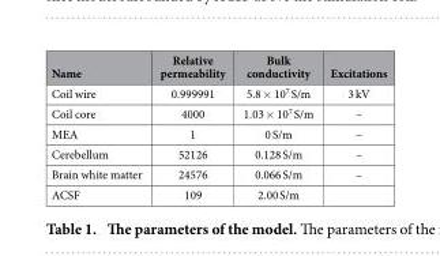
<table><thead><tr><td>Name</td><td>Relative permeability</td><td>Bulk conductivity</td><td>Excitations</td></tr></thead><tbody><tr><td>Coil wire</td><td>0.999991</td><td>5.8 × 10<sup>7</sup> S/m</td><td>3 kV</td></tr><tr><td>Coil core</td><td>4000</td><td>1.03 × 10<sup>7</sup> S/m</td><td>–</td></tr><tr><td>MEA</td><td>1</td><td>0 S/m</td><td>–</td></tr><tr><td>Cerebellum</td><td>52126</td><td>0.128 S/m</td><td>–</td></tr><tr><td>Brain white matter</td><td>24576</td><td>0.066 S/m</td><td>–</td></tr><tr><td>ACSF</td><td>109</td><td>2.00 S/m</td><td></td></tr></tbody></table>